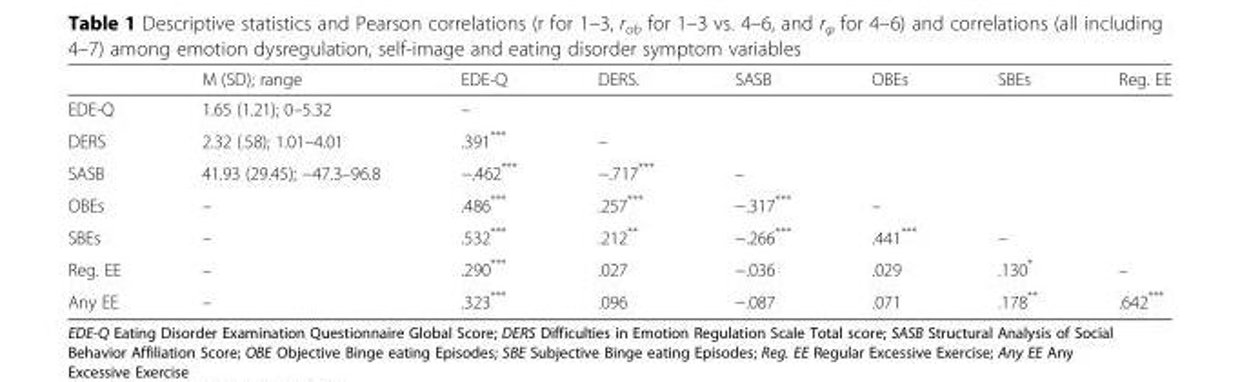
<table><thead><tr><td></td><td>M (SD); range</td><td>EDE-Q</td><td>DERS.</td><td>SASB</td><td>OBEs</td><td>SBEs</td><td>Reg. EE</td></tr></thead><tbody><tr><td>EDE-Q</td><td>1.65 (1.21); 0–5.32</td><td>–</td><td></td><td></td><td></td><td></td><td></td></tr><tr><td>DERS</td><td>2.32 (.58); 1.01–4.01</td><td>.391***</td><td>–</td><td></td><td></td><td></td><td></td></tr><tr><td>SASB</td><td>41.93 (29.45); −47.3–96.8</td><td>−.462***</td><td>−.717***</td><td>–</td><td></td><td></td><td></td></tr><tr><td>OBEs</td><td>–</td><td>.486***</td><td>.257***</td><td>−.317***</td><td>–</td><td></td><td></td></tr><tr><td>SBEs</td><td>–</td><td>.532***</td><td>.212**</td><td>−.266***</td><td>.441***</td><td>–</td><td></td></tr><tr><td>Reg. EE</td><td>–</td><td>.290***</td><td>.027</td><td>−.036</td><td>.029</td><td>.130*</td><td>–</td></tr><tr><td>Any EE</td><td>–</td><td>.323***</td><td>.096</td><td>−.087</td><td>.071</td><td>.178**</td><td>.642***</td></tr></tbody></table>